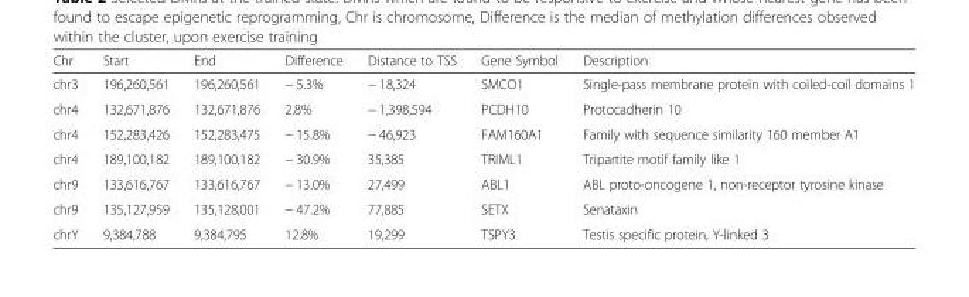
<table><thead><tr><td>Chr</td><td>Start</td><td>End</td><td>Difference</td><td>Distance to TSS</td><td>Gene Symbol</td><td>Description</td></tr></thead><tbody><tr><td>chr3</td><td>196,260,561</td><td>196,260,561</td><td>− 5.3%</td><td>− 18,324</td><td>SMCO1</td><td>Single-pass membrane protein with coiled-coil domains 1</td></tr><tr><td>chr4</td><td>132,671,876</td><td>132,671,876</td><td>2.8%</td><td>− 1,398,594</td><td>PCDH10</td><td>Protocadherin 10</td></tr><tr><td>chr4</td><td>152,283,426</td><td>152,283,475</td><td>− 15.8%</td><td>− 46,923</td><td>FAM160A1</td><td>Family with sequence similarity 160 member A1</td></tr><tr><td>chr4</td><td>189,100,182</td><td>189,100,182</td><td>− 30.9%</td><td>35,385</td><td>TRIML1</td><td>Tripartite motif family like 1</td></tr><tr><td>chr9</td><td>133,616,767</td><td>133,616,767</td><td>− 13.0%</td><td>27,499</td><td>ABL1</td><td>ABL proto-oncogene 1, non-receptor tyrosine kinase</td></tr><tr><td>chr9</td><td>135,127,959</td><td>135,128,001</td><td>− 47.2%</td><td>77,885</td><td>SETX</td><td>Senataxin</td></tr><tr><td>chrY</td><td>9,384,788</td><td>9,384,795</td><td>12.8%</td><td>19,299</td><td>TSPY3</td><td>Testis specific protein, Y-linked 3</td></tr></tbody></table>